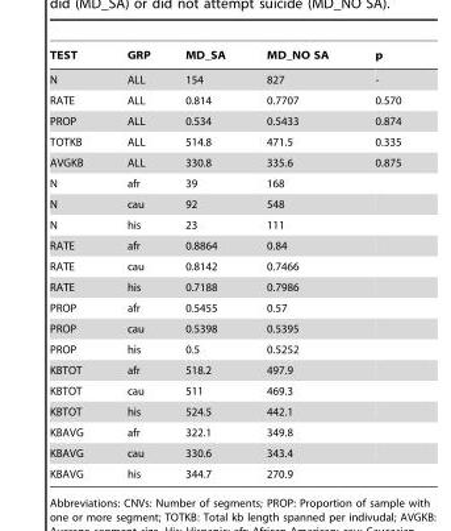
<table><thead><tr><td>TEST</td><td>GRP</td><td>MD_SA</td><td>MD_NO SA</td><td>p</td></tr></thead><tbody><tr><td>N</td><td>ALL</td><td>154</td><td>827</td><td>-</td></tr><tr><td>RATE</td><td>ALL</td><td>0.814</td><td>0.7707</td><td>0.570</td></tr><tr><td>PROP</td><td>ALL</td><td>0.534</td><td>0.5433</td><td>0.874</td></tr><tr><td>TOTKB</td><td>ALL</td><td>514.8</td><td>471.5</td><td>0.335</td></tr><tr><td>AVGKB</td><td>ALL</td><td>330.8</td><td>335.6</td><td>0.875</td></tr><tr><td>N</td><td>afr</td><td>39</td><td>168</td><td></td></tr><tr><td>N</td><td>cau</td><td>92</td><td>548</td><td></td></tr><tr><td>N</td><td>his</td><td>23</td><td>111</td><td></td></tr><tr><td>RATE</td><td>afr</td><td>0.8864</td><td>0.84</td><td></td></tr><tr><td>RATE</td><td>cau</td><td>0.8142</td><td>0.7466</td><td></td></tr><tr><td>RATE</td><td>his</td><td>0.7188</td><td>0.7986</td><td></td></tr><tr><td>PROP</td><td>afr</td><td>0.5455</td><td>0.57</td><td></td></tr><tr><td>PROP</td><td>cau</td><td>0.5398</td><td>0.5395</td><td></td></tr><tr><td>PROP</td><td>his</td><td>0.5</td><td>0.5252</td><td></td></tr><tr><td>KBTOT</td><td>afr</td><td>518.2</td><td>497.9</td><td></td></tr><tr><td>KBTOT</td><td>cau</td><td>511</td><td>469.3</td><td></td></tr><tr><td>KBTOT</td><td>his</td><td>524.5</td><td>442.1</td><td></td></tr><tr><td>KBAVG</td><td>afr</td><td>322.1</td><td>349.8</td><td></td></tr><tr><td>KBAVG</td><td>cau</td><td>330.6</td><td>343.4</td><td></td></tr><tr><td>KBAVG</td><td>his</td><td>344.7</td><td>270.9</td><td></td></tr></tbody></table>